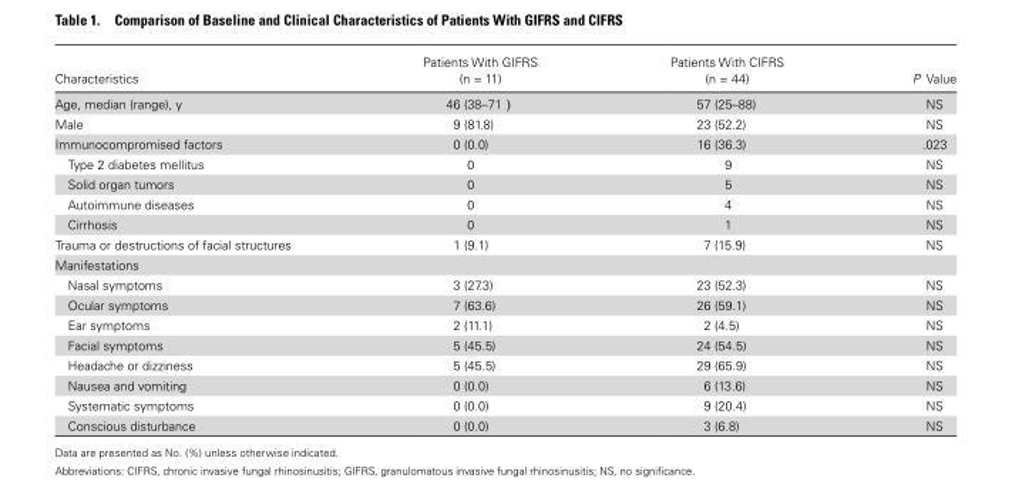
<table><thead><tr><td>Characteristics</td><td>Patients With GIFRS (n = 11)</td><td>Patients With CIFRS (n = 44)</td><td>P Value</td></tr></thead><tbody><tr><td>Age, median (range), y</td><td>46 (38–71）</td><td>57 (25–88)</td><td>NS</td></tr><tr><td>Male</td><td>9 (81.8)</td><td>23 (52.2)</td><td>NS</td></tr><tr><td>Immunocompromised factors</td><td>0 (0.0)</td><td>16 (36.3)</td><td>.023</td></tr><tr><td>Type 2 diabetes mellitus</td><td>0</td><td>9</td><td>NS</td></tr><tr><td>Solid organ tumors</td><td>0</td><td>5</td><td>NS</td></tr><tr><td>Autoimmune diseases</td><td>0</td><td>4</td><td>NS</td></tr><tr><td>Cirrhosis</td><td>0</td><td>1</td><td>NS</td></tr><tr><td>Trauma or destructions of facial structures</td><td>1 (9.1)</td><td>7 (15.9)</td><td>NS</td></tr><tr><td colspan="4">Manifestations</td></tr><tr><td>Nasal symptoms</td><td>3 (27.3)</td><td>23 (52.3)</td><td>NS</td></tr><tr><td>Ocular symptoms</td><td>7 (63.6)</td><td>26 (59.1)</td><td>NS</td></tr><tr><td>Ear symptoms</td><td>2 (11.1)</td><td>2 (4.5)</td><td>NS</td></tr><tr><td>Facial symptoms</td><td>5 (45.5)</td><td>24 (54.5)</td><td>NS</td></tr><tr><td>Headache or dizziness</td><td>5 (45.5)</td><td>29 (65.9)</td><td>NS</td></tr><tr><td>Nausea and vomiting</td><td>0 (0.0)</td><td>6 (13.6)</td><td>NS</td></tr><tr><td>Systematic symptoms</td><td>0 (0.0)</td><td>9 (20.4)</td><td>NS</td></tr><tr><td>Conscious disturbance</td><td>0 (0.0)</td><td>3 (6.8)</td><td>NS</td></tr></tbody></table>